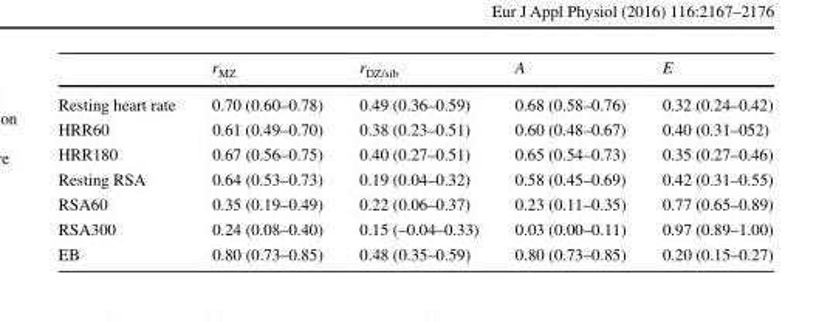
<table><thead><tr><td></td><td>r<sub>MZ</sub></td><td>r<sub>DZ/sib</sub></td><td>A</td><td>E</td></tr></thead><tbody><tr><td>Resting heart rate</td><td>0.70 (0.60–0.78)</td><td>0.49 (0.36–0.59)</td><td>0.68 (0.58–0.76)</td><td>0.32 (0.24–0.42)</td></tr><tr><td>HRR60</td><td>0.61 (0.49–0.70)</td><td>0.38 (0.23–0.51)</td><td>0.60 (0.48–0.67)</td><td>0.40 (0.31–052)</td></tr><tr><td>HRR180</td><td>0.67 (0.56–0.75)</td><td>0.40 (0.27–0.51)</td><td>0.65 (0.54–0.73)</td><td>0.35 (0.27–0.46)</td></tr><tr><td>Resting RSA</td><td>0.64 (0.53–0.73)</td><td>0.19 (0.04–0.32)</td><td>0.58 (0.45–0.69)</td><td>0.42 (0.31–0.55)</td></tr><tr><td>RSA60</td><td>0.35 (0.19–0.49)</td><td>0.22 (0.06–0.37)</td><td>0.23 (0.11–0.35)</td><td>0.77 (0.65–0.89)</td></tr><tr><td>RSA300</td><td>0.24 (0.08–0.40)</td><td>0.15 (–0.04–0.33)</td><td>0.03 (0.00–0.11)</td><td>0.97 (0.89–1.00)</td></tr><tr><td>EB</td><td>0.80 (0.73–0.85)</td><td>0.48 (0.35–0.59)</td><td>0.80 (0.73–0.85)</td><td>0.20 (0.15–0.27)</td></tr></tbody></table>